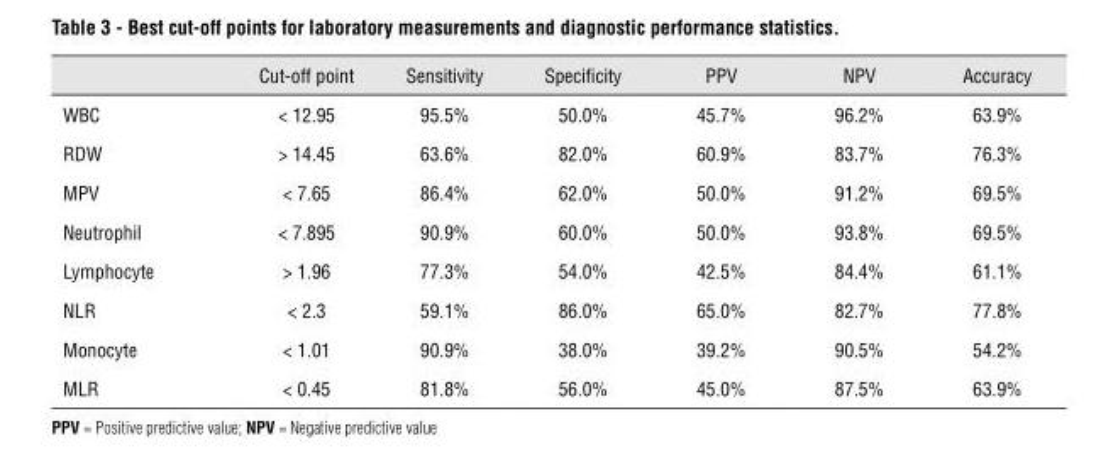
<table><thead><tr><td></td><td>Cut-off point</td><td>Sensitivity</td><td>Specificity</td><td>PPV</td><td>NPV</td><td>Accuracy</td></tr></thead><tbody><tr><td>WBC</td><td>&lt; 12.95</td><td>95.5%</td><td>50.0%</td><td>45.7%</td><td>96.2%</td><td>63.9%</td></tr><tr><td>RDW</td><td>&gt; 14.45</td><td>63.6%</td><td>82.0%</td><td>60.9%</td><td>83.7%</td><td>76.3%</td></tr><tr><td>MPV</td><td>&lt; 7.65</td><td>86.4%</td><td>62.0%</td><td>50.0%</td><td>91.2%</td><td>69.5%</td></tr><tr><td>Neutrophil</td><td>&lt; 7.895</td><td>90.9%</td><td>60.0%</td><td>50.0%</td><td>93.8%</td><td>69.5%</td></tr><tr><td>Lymphocyte</td><td>&gt; 1.96</td><td>77.3%</td><td>54.0%</td><td>42.5%</td><td>84.4%</td><td>61.1%</td></tr><tr><td>NLR</td><td>&lt; 2.3</td><td>59.1%</td><td>86.0%</td><td>65.0%</td><td>82.7%</td><td>77.8%</td></tr><tr><td>Monocyte</td><td>&lt; 1.01</td><td>90.9%</td><td>38.0%</td><td>39.2%</td><td>90.5%</td><td>54.2%</td></tr><tr><td>MLR</td><td>&lt; 0.45</td><td>81.8%</td><td>56.0%</td><td>45.0%</td><td>87.5%</td><td>63.9%</td></tr></tbody></table>